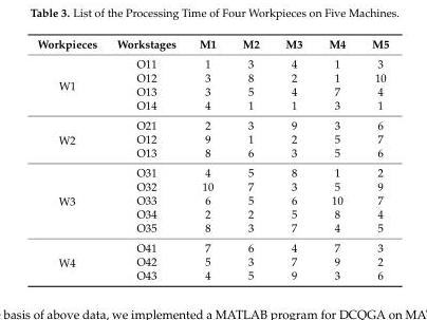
<table><thead><tr><td>Workpieces</td><td>Workstages</td><td>M1</td><td>M2</td><td>M3</td><td>M4</td><td>M5</td></tr></thead><tbody><tr><td rowspan="4">W1</td><td>O11</td><td>1</td><td>3</td><td>4</td><td>1</td><td>3</td></tr><tr><td>O12</td><td>3</td><td>8</td><td>2</td><td>1</td><td>10</td></tr><tr><td>O13</td><td>3</td><td>5</td><td>4</td><td>7</td><td>4</td></tr><tr><td>O14</td><td>4</td><td>1</td><td>1</td><td>3</td><td>1</td></tr><tr><td rowspan="3">W2</td><td>O21</td><td>2</td><td>3</td><td>9</td><td>3</td><td>6</td></tr><tr><td>O12</td><td>9</td><td>1</td><td>2</td><td>5</td><td>7</td></tr><tr><td>O13</td><td>8</td><td>6</td><td>3</td><td>5</td><td>6</td></tr><tr><td rowspan="5">W3</td><td>O31</td><td>4</td><td>5</td><td>8</td><td>1</td><td>2</td></tr><tr><td>O32</td><td>10</td><td>7</td><td>3</td><td>5</td><td>9</td></tr><tr><td>O33</td><td>6</td><td>5</td><td>6</td><td>10</td><td>7</td></tr><tr><td>O34</td><td>2</td><td>2</td><td>5</td><td>8</td><td>4</td></tr><tr><td>O35</td><td>8</td><td>3</td><td>7</td><td>4</td><td>5</td></tr><tr><td rowspan="3">W4</td><td>O41</td><td>7</td><td>6</td><td>4</td><td>7</td><td>3</td></tr><tr><td>O42</td><td>5</td><td>3</td><td>7</td><td>9</td><td>2</td></tr><tr><td>O43</td><td>4</td><td>5</td><td>9</td><td>3</td><td>6</td></tr></tbody></table>